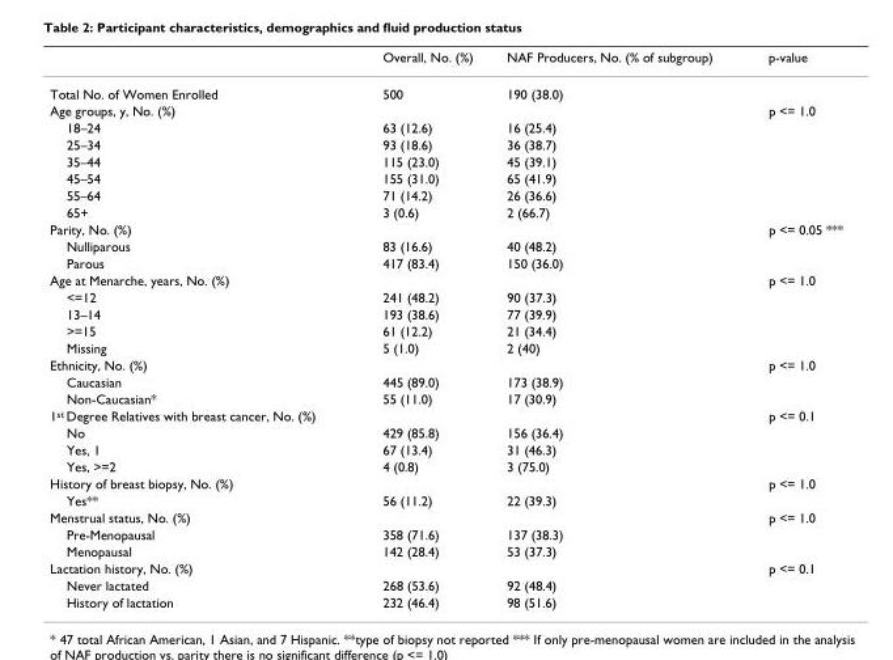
<table><thead><tr><td></td><td>Overall, No. (%)</td><td>NAF Producers, No. (% of subgroup)</td><td>p-value</td></tr></thead><tbody><tr><td>Total No. of Women Enrolled</td><td>500</td><td>190 (38.0)</td><td></td></tr><tr><td>Age groups, y, No. (%)</td><td></td><td></td><td>p &lt;= 1.0</td></tr><tr><td>18–24</td><td>63 (12.6)</td><td>16 (25.4)</td><td></td></tr><tr><td>25–34</td><td>93 (18.6)</td><td>36 (38.7)</td><td></td></tr><tr><td>35–44</td><td>115 (23.0)</td><td>45 (39.1)</td><td></td></tr><tr><td>45–54</td><td>155 (31.0)</td><td>65 (41.9)</td><td></td></tr><tr><td>55–64</td><td>71 (14.2)</td><td>26 (36.6)</td><td></td></tr><tr><td>65+</td><td>3 (0.6)</td><td>2 (66.7)</td><td></td></tr><tr><td>Parity, No. (%)</td><td></td><td></td><td>p &lt;= 0.05 ***</td></tr><tr><td>Nulliparous</td><td>83 (16.6)</td><td>40 (48.2)</td><td></td></tr><tr><td>Parous</td><td>417 (83.4)</td><td>150 (36.0)</td><td></td></tr><tr><td>Age at Menarche, years, No. (%)</td><td></td><td></td><td>p &lt;= 1.0</td></tr><tr><td>&lt;=12</td><td>241 (48.2)</td><td>90 (37.3)</td><td></td></tr><tr><td>13–14</td><td>193 (38.6)</td><td>77 (39.9)</td><td></td></tr><tr><td>&gt;=15</td><td>61 (12.2)</td><td>21 (34.4)</td><td></td></tr><tr><td>Missing</td><td>5 (1.0)</td><td>2 (40)</td><td></td></tr><tr><td>Ethnicity, No. (%)</td><td></td><td></td><td>p &lt;= 1.0</td></tr><tr><td>Caucasian</td><td>445 (89.0)</td><td>173 (38.9)</td><td></td></tr><tr><td>Non-Caucasian*</td><td>55 (11.0)</td><td>17 (30.9)</td><td></td></tr><tr><td>1<sup>st</sup> Degree Relatives with breast cancer, No. (%)</td><td></td><td></td><td>p &lt;= 0.1</td></tr><tr><td>No</td><td>429 (85.8)</td><td>156 (36.4)</td><td></td></tr><tr><td>Yes, 1</td><td>67 (13.4)</td><td>31 (46.3)</td><td></td></tr><tr><td>Yes, &gt;=2</td><td>4 (0.8)</td><td>3 (75.0)</td><td></td></tr><tr><td>History of breast biopsy, No. (%)</td><td></td><td></td><td>p &lt;= 1.0</td></tr><tr><td>Yes**</td><td>56 (11.2)</td><td>22 (39.3)</td><td></td></tr><tr><td>Menstrual status, No. (%)</td><td></td><td></td><td>p &lt;= 1.0</td></tr><tr><td>Pre-Menopausal</td><td>358 (71.6)</td><td>137 (38.3)</td><td></td></tr><tr><td>Menopausal</td><td>142 (28.4)</td><td>53 (37.3)</td><td></td></tr><tr><td>Lactation history, No. (%)</td><td></td><td></td><td>p &lt;= 0.1</td></tr><tr><td>Never lactated</td><td>268 (53.6)</td><td>92 (48.4)</td><td></td></tr><tr><td>History of lactation</td><td>232 (46.4)</td><td>98 (51.6)</td><td></td></tr></tbody></table>